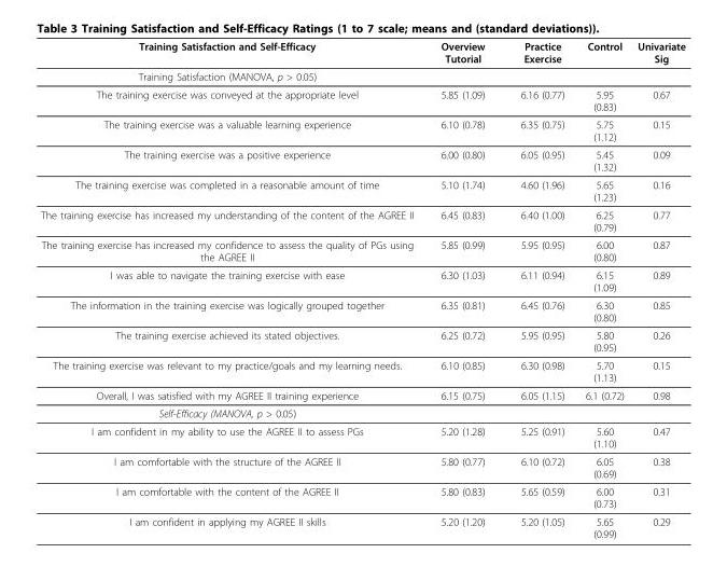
<table><thead><tr><td>Training Satisfaction and Self-Efficacy</td><td>Overview Tutorial</td><td>Practice Exercise</td><td>Control</td><td>Univariate Sig</td></tr></thead><tbody><tr><td colspan="5">Training Satisfaction (MANOVA, p &gt; 0.05)</td></tr><tr><td>The training exercise was conveyed at the appropriate level</td><td>5.85 (1.09)</td><td>6.16 (0.77)</td><td>5.95 (0.83)</td><td>0.67</td></tr><tr><td>The training exercise was a valuable learning experience</td><td>6.10 (0.78)</td><td>6.35 (0.75)</td><td>5.75 (1.12)</td><td>0.15</td></tr><tr><td>The training exercise was a positive experience</td><td>6.00 (0.80)</td><td>6.05 (0.95)</td><td>5.45 (1.32)</td><td>0.09</td></tr><tr><td>The training exercise was completed in a reasonable amount of time</td><td>5.10 (1.74)</td><td>4.60 (1.96)</td><td>5.65 (1.23)</td><td>0.16</td></tr><tr><td>The training exercise has increased my understanding of the content of the AGREE II</td><td>6.45 (0.83)</td><td>6.40 (1.00)</td><td>6.25 (0.79)</td><td>0.77</td></tr><tr><td>The training exercise has increased my confidence to assess the quality of PGs using the AGREE II</td><td>5.85 (0.99)</td><td>5.95 (0.95)</td><td>6.00 (0.80)</td><td>0.87</td></tr><tr><td>I was able to navigate the training exercise with ease</td><td>6.30 (1.03)</td><td>6.11 (0.94)</td><td>6.15 (1.09)</td><td>0.89</td></tr><tr><td>The information in the training exercise was logically grouped together</td><td>6.35 (0.81)</td><td>6.45 (0.76)</td><td>6.30 (0.80)</td><td>0.85</td></tr><tr><td>The training exercise achieved its stated objectives.</td><td>6.25 (0.72)</td><td>5.95 (0.95)</td><td>5.80 (0.95)</td><td>0.26</td></tr><tr><td>The training exercise was relevant to my practice/goals and my learning needs.</td><td>6.10 (0.85)</td><td>6.30 (0.98)</td><td>5.70 (1.13)</td><td>0.15</td></tr><tr><td>Overall, I was satisfied with my AGREE II training experience</td><td>6.15 (0.75)</td><td>6.05 (1.15)</td><td>6.1 (0.72)</td><td>0.98</td></tr><tr><td colspan="5">Self-Efficacy (MANOVA, p &gt; 0.05)</td></tr><tr><td>I am confident in my ability to use the AGREE II to assess PGs</td><td>5.20 (1.28)</td><td>5.25 (0.91)</td><td>5.60 (1.10)</td><td>0.47</td></tr><tr><td>I am comfortable with the structure of the AGREE II</td><td>5.80 (0.77)</td><td>6.10 (0.72)</td><td>6.05 (0.69)</td><td>0.38</td></tr><tr><td>I am comfortable with the content of the AGREE II</td><td>5.80 (0.83)</td><td>5.65 (0.59)</td><td>6.00 (0.73)</td><td>0.31</td></tr><tr><td>I am confident in applying my AGREE II skills</td><td>5.20 (1.20)</td><td>5.20 (1.05)</td><td>5.65 (0.99)</td><td>0.29</td></tr></tbody></table>